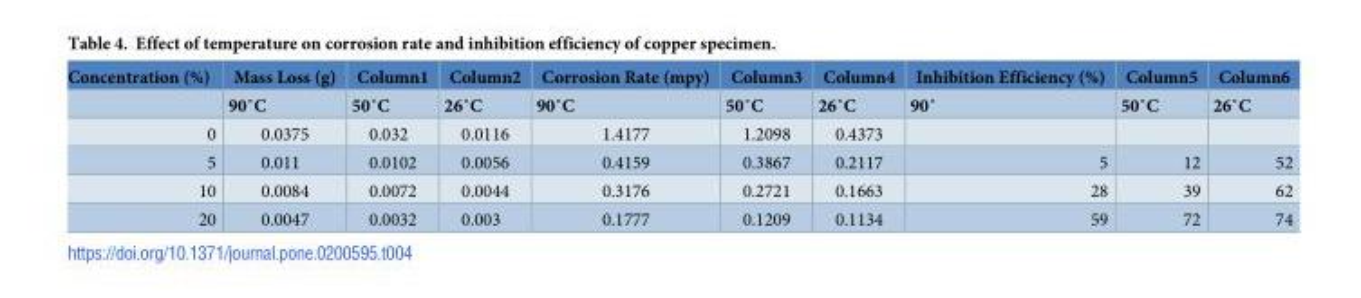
<table><thead><tr><td rowspan="2">Concentration (%)</td><td rowspan="2">Mass Loss (g) 90˚C</td><td rowspan="2">Column1 50˚C</td><td rowspan="2">Column2 26˚C</td><td rowspan="2">Corrosion Rate (mpy) 90˚C</td><td rowspan="2">Column3 50˚C</td><td rowspan="2">Column4 26˚C</td><td rowspan="2">Inhibition Efficiency (%) 90˚</td><td rowspan="2">Column5 50˚C</td><td rowspan="2">Column6 26˚C</td></tr><tr></tr></thead><tbody><tr><td>0</td><td>0.0375</td><td>0.032</td><td>0.0116</td><td>1.4177</td><td>1.2098</td><td>0.4373</td><td></td><td></td><td></td></tr><tr><td>5</td><td>0.011</td><td>0.0102</td><td>0.0056</td><td>0.4159</td><td>0.3867</td><td>0.2117</td><td>5</td><td>12</td><td>52</td></tr><tr><td>10</td><td>0.0084</td><td>0.0072</td><td>0.0044</td><td>0.3176</td><td>0.2721</td><td>0.1663</td><td>28</td><td>39</td><td>62</td></tr><tr><td>20</td><td>0.0047</td><td>0.0032</td><td>0.003</td><td>0.1777</td><td>0.1209</td><td>0.1134</td><td>59</td><td>72</td><td>74</td></tr></tbody></table>